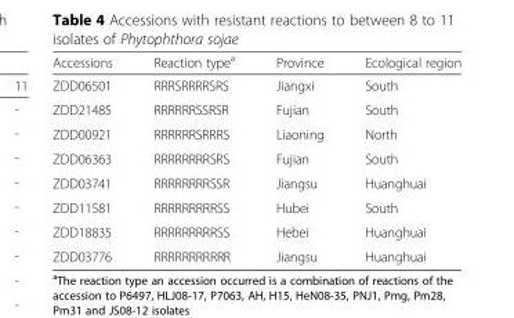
<table><thead><tr><td>Accessions</td><td>Reaction type<sup>a</sup></td><td>Province</td><td>Ecological region</td></tr></thead><tbody><tr><td>ZDD06501</td><td>RRRSRRRRSRS</td><td>Jiangxi</td><td>South</td></tr><tr><td>ZDD21485</td><td>RRRRRRSSRSR</td><td>Fujian</td><td>South</td></tr><tr><td>ZDD00921</td><td>RRRRRRSRRRS</td><td>Liaoning</td><td>North</td></tr><tr><td>ZDD06363</td><td>RRRRRRRRSRS</td><td>Fujian</td><td>South</td></tr><tr><td>ZDD03741</td><td>RRRRRRRRSSR</td><td>Jiangsu</td><td>Huanghuai</td></tr><tr><td>ZDD11581</td><td>RRRRRRRRRSS</td><td>Hubei</td><td>South</td></tr><tr><td>ZDD18835</td><td>RRRRRRRRRSS</td><td>Hebei</td><td>Huanghuai</td></tr><tr><td>ZDD03776</td><td>RRRRRRRRRRR</td><td>Jiangsu</td><td>Huanghuai</td></tr></tbody></table>